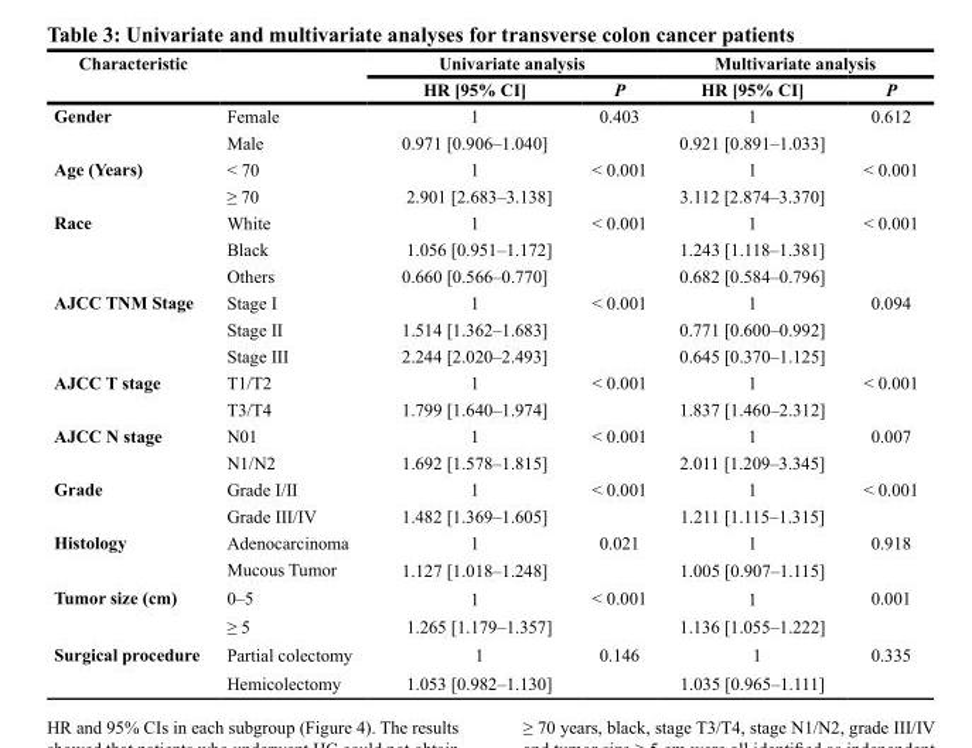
<table><thead><tr><td rowspan="2">Characteristic</td><td rowspan="2"></td><td colspan="2">Univariate analysis</td><td colspan="2">Multivariate analysis</td></tr><tr><td>HR [95% CI]</td><td>P</td><td>HR [95% CI]</td><td>P</td></tr></thead><tbody><tr><td rowspan="2">Gender</td><td>Female</td><td>1</td><td>0.403</td><td>1</td><td>0.612</td></tr><tr><td>Male</td><td>0.971 [0.906–1.040]</td><td></td><td>0.921 [0.891–1.033]</td><td></td></tr><tr><td rowspan="2">Age (Years)</td><td>&lt; 70</td><td>1</td><td>&lt; 0.001</td><td>1</td><td>&lt; 0.001</td></tr><tr><td>≥ 70</td><td>2.901 [2.683–3.138]</td><td></td><td>3.112 [2.874–3.370]</td><td></td></tr><tr><td rowspan="3">Race</td><td>White</td><td>1</td><td>&lt; 0.001</td><td>1</td><td>&lt; 0.001</td></tr><tr><td>Black</td><td>1.056 [0.951–1.172]</td><td></td><td>1.243 [1.118–1.381]</td><td></td></tr><tr><td>Others</td><td>0.660 [0.566–0.770]</td><td></td><td>0.682 [0.584–0.796]</td><td></td></tr><tr><td rowspan="3">AJCC TNM Stage</td><td>Stage I</td><td>1</td><td>&lt; 0.001</td><td>1</td><td>0.094</td></tr><tr><td>Stage II</td><td>1.514 [1.362–1.683]</td><td></td><td>0.771 [0.600–0.992]</td><td></td></tr><tr><td>Stage III</td><td>2.244 [2.020–2.493]</td><td></td><td>0.645 [0.370–1.125]</td><td></td></tr><tr><td rowspan="2">AJCC T stage</td><td>T1/T2</td><td>1</td><td>&lt; 0.001</td><td>1</td><td>&lt; 0.001</td></tr><tr><td>T3/T4</td><td>1.799 [1.640–1.974]</td><td></td><td>1.837 [1.460–2.312]</td><td></td></tr><tr><td rowspan="2">AJCC N stage</td><td>N01</td><td>1</td><td>&lt; 0.001</td><td>1</td><td>0.007</td></tr><tr><td>N1/N2</td><td>1.692 [1.578–1.815]</td><td></td><td>2.011 [1.209–3.345]</td><td></td></tr><tr><td rowspan="2">Grade</td><td>Grade I/II</td><td>1</td><td>&lt; 0.001</td><td>1</td><td>&lt; 0.001</td></tr><tr><td>Grade III/IV</td><td>1.482 [1.369–1.605]</td><td></td><td>1.211 [1.115–1.315]</td><td></td></tr><tr><td rowspan="2">Histology</td><td>Adenocarcinoma</td><td>1</td><td>0.021</td><td>1</td><td>0.918</td></tr><tr><td>Mucous Tumor</td><td>1.127 [1.018–1.248]</td><td></td><td>1.005 [0.907–1.115]</td><td></td></tr><tr><td rowspan="2">Tumor size (cm)</td><td>0–5</td><td>1</td><td>&lt; 0.001</td><td>1</td><td>0.001</td></tr><tr><td>≥ 5</td><td>1.265 [1.179–1.357]</td><td></td><td>1.136 [1.055–1.222]</td><td></td></tr><tr><td rowspan="2">Surgical procedure</td><td>Partial colectomy</td><td>1</td><td>0.146</td><td>1</td><td>0.335</td></tr><tr><td>Hemicolectomy</td><td>1.053 [0.982–1.130]</td><td></td><td>1.035 [0.965–1.111]</td><td></td></tr></tbody></table>